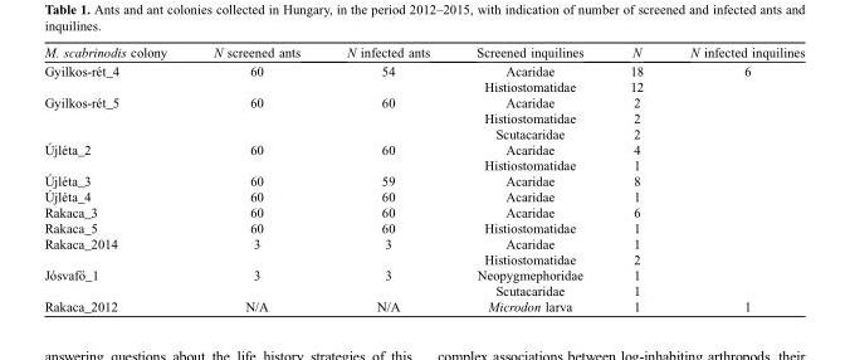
<table><thead><tr><td>M. scabrinodis colony</td><td>N screened ants</td><td>N infected ants</td><td>Screened inquilines</td><td>N</td><td>N infected inquilines</td></tr></thead><tbody><tr><td rowspan="2">Gyilkos-rét_4</td><td rowspan="2">60</td><td rowspan="2">54</td><td>Acaridae</td><td>18</td><td>6</td></tr><tr><td>Histiostomatidae</td><td>12</td><td></td></tr><tr><td rowspan="3">Gyilkos-rét_5</td><td rowspan="3">60</td><td rowspan="3">60</td><td>Acaridae</td><td>2</td><td></td></tr><tr><td>Histiostomatidae</td><td>2</td><td></td></tr><tr><td>Scutacaridae</td><td>2</td><td></td></tr><tr><td rowspan="2">Újléta_2</td><td rowspan="2">60</td><td rowspan="2">60</td><td>Acaridae</td><td>4</td><td></td></tr><tr><td>Histiostomatidae</td><td>1</td><td></td></tr><tr><td>Újléta_3</td><td>60</td><td>59</td><td>Acaridae</td><td>8</td><td></td></tr><tr><td>Újléta_4</td><td>60</td><td>60</td><td>Acaridae</td><td>1</td><td></td></tr><tr><td>Rakaca_3</td><td>60</td><td>60</td><td>Acaridae</td><td>6</td><td></td></tr><tr><td>Rakaca_5</td><td>60</td><td>60</td><td>Histiostomatidae</td><td>1</td><td></td></tr><tr><td rowspan="2">Rakaca_2014</td><td rowspan="2">3</td><td rowspan="2">3</td><td>Acaridae</td><td>1</td><td></td></tr><tr><td>Histiostomatidae</td><td>2</td><td></td></tr><tr><td rowspan="2">Jósvaf}o_1</td><td rowspan="2">3</td><td rowspan="2">3</td><td>Neopygmephoridae</td><td>1</td><td></td></tr><tr><td>Scutacaridae</td><td>1</td><td></td></tr><tr><td>Rakaca_2012</td><td>N/A</td><td>N/A</td><td>Microdon larva</td><td>1</td><td>1</td></tr></tbody></table>